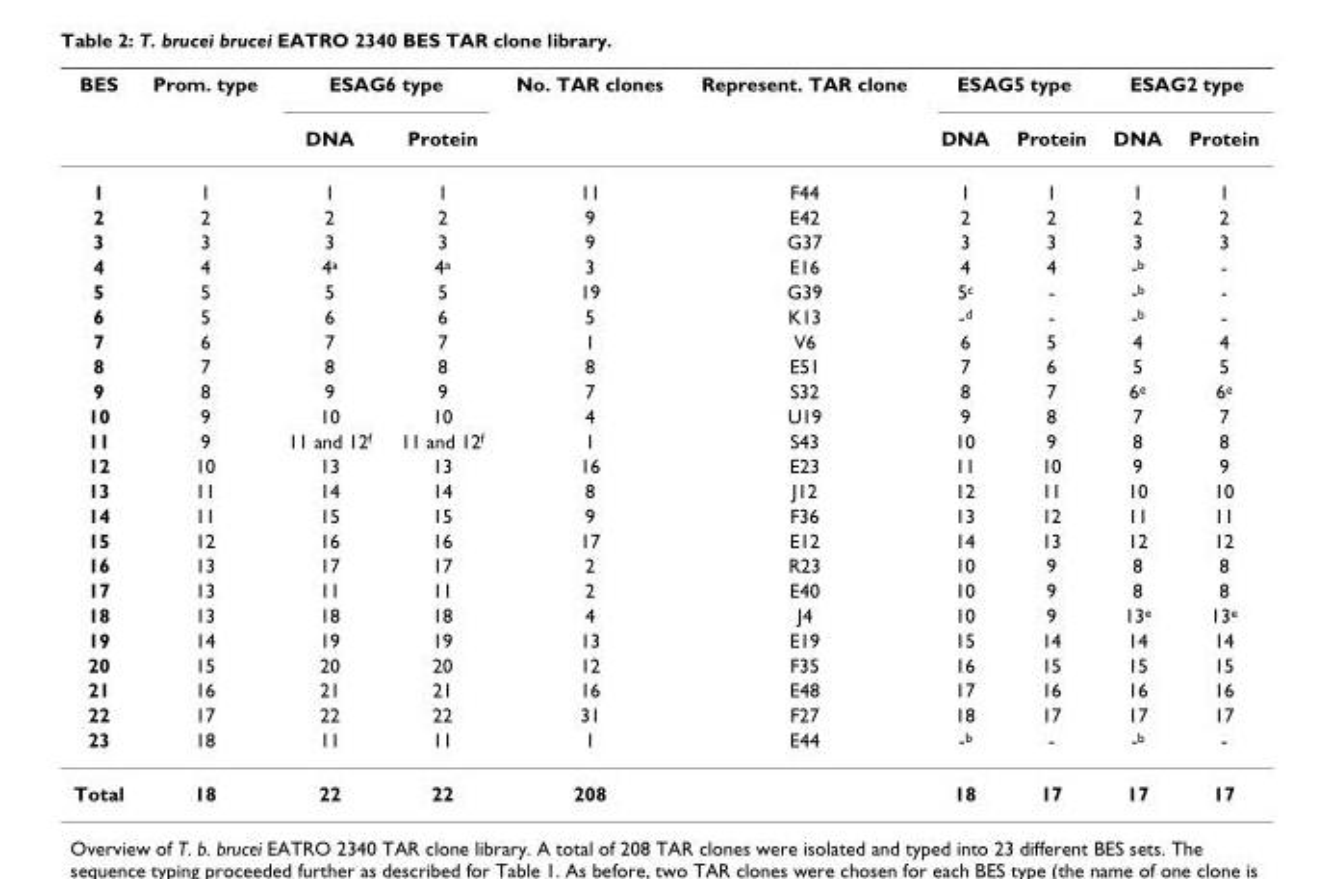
<table><thead><tr><td rowspan="2">BES</td><td rowspan="2">Prom. type</td><td colspan="2">ESAG6 type</td><td rowspan="2">No. TAR clones</td><td rowspan="2">Represent. TAR clone</td><td colspan="2">ESAG5 type</td><td colspan="2">ESAG2 type</td></tr><tr><td>DNA</td><td>Protein</td><td>DNA</td><td>Protein</td><td>DNA</td><td>Protein</td></tr></thead><tbody><tr><td>1</td><td>1</td><td>1</td><td>1</td><td>11</td><td>F44</td><td>1</td><td>1</td><td>1</td><td>1</td></tr><tr><td>2</td><td>2</td><td>2</td><td>2</td><td>9</td><td>E42</td><td>2</td><td>2</td><td>2</td><td>2</td></tr><tr><td>3</td><td>3</td><td>3</td><td>3</td><td>9</td><td>G37</td><td>3</td><td>3</td><td>3</td><td>3</td></tr><tr><td>4</td><td>4</td><td>4<sup>a</sup></td><td>4<sup>a</sup></td><td>3</td><td>E16</td><td>4</td><td>4</td><td>-<sup>b</sup></td><td>-</td></tr><tr><td>5</td><td>5</td><td>5</td><td>5</td><td>19</td><td>G39</td><td>5<sup>c</sup></td><td>-</td><td>-<sup>b</sup></td><td>-</td></tr><tr><td>6</td><td>5</td><td>6</td><td>6</td><td>5</td><td>K13</td><td>-<sup>d</sup></td><td>-</td><td>-<sup>b</sup></td><td>-</td></tr><tr><td>7</td><td>6</td><td>7</td><td>7</td><td>1</td><td>V6</td><td>6</td><td>5</td><td>4</td><td>4</td></tr><tr><td>8</td><td>7</td><td>8</td><td>8</td><td>8</td><td>E51</td><td>7</td><td>6</td><td>5</td><td>5</td></tr><tr><td>9</td><td>8</td><td>9</td><td>9</td><td>7</td><td>S32</td><td>8</td><td>7</td><td>6<sup>e</sup></td><td>6<sup>e</sup></td></tr><tr><td>10</td><td>9</td><td>10</td><td>10</td><td>4</td><td>U19</td><td>9</td><td>8</td><td>7</td><td>7</td></tr><tr><td>11</td><td>9</td><td>11 and 12<sup>f</sup></td><td>11 and 12<sup>f</sup></td><td>1</td><td>S43</td><td>10</td><td>9</td><td>8</td><td>8</td></tr><tr><td>12</td><td>10</td><td>13</td><td>13</td><td>16</td><td>E23</td><td>11</td><td>10</td><td>9</td><td>9</td></tr><tr><td>13</td><td>11</td><td>14</td><td>14</td><td>8</td><td>J12</td><td>12</td><td>11</td><td>10</td><td>10</td></tr><tr><td>14</td><td>11</td><td>15</td><td>15</td><td>9</td><td>F36</td><td>13</td><td>12</td><td>11</td><td>11</td></tr><tr><td>15</td><td>12</td><td>16</td><td>16</td><td>17</td><td>E12</td><td>14</td><td>13</td><td>12</td><td>12</td></tr><tr><td>16</td><td>13</td><td>17</td><td>17</td><td>2</td><td>R23</td><td>10</td><td>9</td><td>8</td><td>8</td></tr><tr><td>17</td><td>13</td><td>11</td><td>11</td><td>2</td><td>E40</td><td>10</td><td>9</td><td>8</td><td>8</td></tr><tr><td>18</td><td>13</td><td>18</td><td>18</td><td>4</td><td>J4</td><td>10</td><td>9</td><td>13<sup>e</sup></td><td>13<sup>e</sup></td></tr><tr><td>19</td><td>14</td><td>19</td><td>19</td><td>13</td><td>E19</td><td>15</td><td>14</td><td>14</td><td>14</td></tr><tr><td>20</td><td>15</td><td>20</td><td>20</td><td>12</td><td>F35</td><td>16</td><td>15</td><td>15</td><td>15</td></tr><tr><td>21</td><td>16</td><td>21</td><td>21</td><td>16</td><td>E48</td><td>17</td><td>16</td><td>16</td><td>16</td></tr><tr><td>22</td><td>17</td><td>22</td><td>22</td><td>31</td><td>F27</td><td>18</td><td>17</td><td>17</td><td>17</td></tr><tr><td>23</td><td>18</td><td>11</td><td>11</td><td>1</td><td>E44</td><td>-<sup>b</sup></td><td>-</td><td>-<sup>b</sup></td><td>-</td></tr><tr><td>Total</td><td>18</td><td>22</td><td>22</td><td>208</td><td></td><td>18</td><td>17</td><td>17</td><td>17</td></tr></tbody></table>